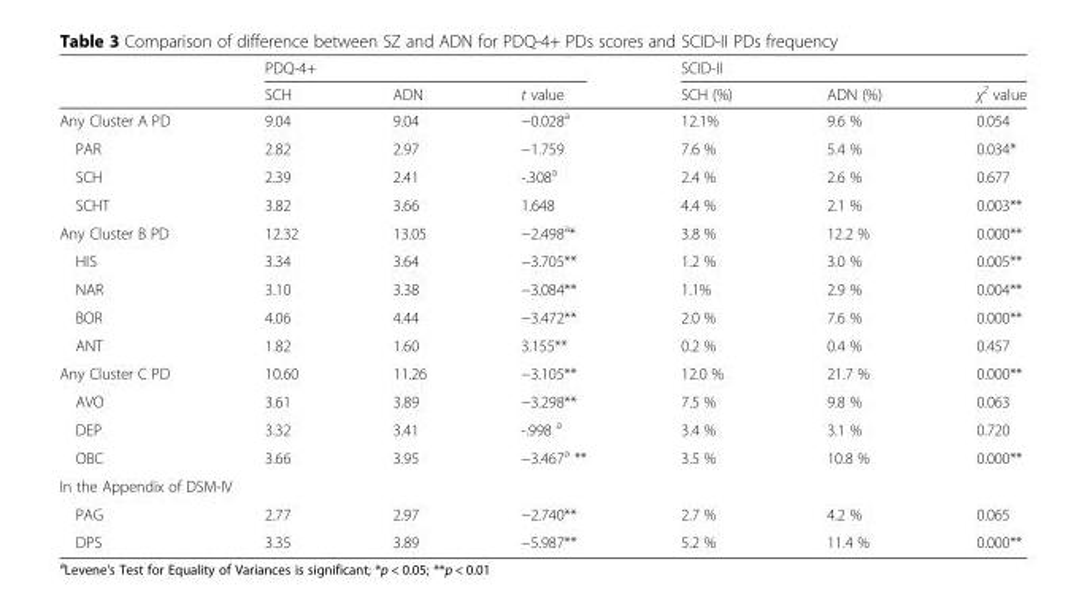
<table><thead><tr><td rowspan="2"></td><td colspan="3">PDQ-4+</td><td colspan="3">SCID-II</td></tr><tr><td>SCH</td><td>ADN</td><td>t value</td><td>SCH (%)</td><td>ADN (%)</td><td>χ<sup>2</sup> value</td></tr></thead><tbody><tr><td>Any Cluster A PD</td><td>9.04</td><td>9.04</td><td>−0.028<sup>a</sup></td><td>12.1%</td><td>9.6 %</td><td>0.054</td></tr><tr><td>PAR</td><td>2.82</td><td>2.97</td><td>−1.759</td><td>7.6 %</td><td>5.4 %</td><td>0.034*</td></tr><tr><td>SCH</td><td>2.39</td><td>2.41</td><td>-.308<sup>a</sup></td><td>2.4 %</td><td>2.6 %</td><td>0.677</td></tr><tr><td>SCHT</td><td>3.82</td><td>3.66</td><td>1.648</td><td>4.4 %</td><td>2.1 %</td><td>0.003**</td></tr><tr><td>Any Cluster B PD</td><td>12.32</td><td>13.05</td><td>−2.498<sup>a</sup>*</td><td>3.8 %</td><td>12.2 %</td><td>0.000**</td></tr><tr><td>HIS</td><td>3.34</td><td>3.64</td><td>−3.705**</td><td>1.2 %</td><td>3.0 %</td><td>0.005**</td></tr><tr><td>NAR</td><td>3.10</td><td>3.38</td><td>−3.084**</td><td>1.1%</td><td>2.9 %</td><td>0.004**</td></tr><tr><td>BOR</td><td>4.06</td><td>4.44</td><td>−3.472**</td><td>2.0 %</td><td>7.6 %</td><td>0.000**</td></tr><tr><td>ANT</td><td>1.82</td><td>1.60</td><td>3.155**</td><td>0.2 %</td><td>0.4 %</td><td>0.457</td></tr><tr><td>Any Cluster C PD</td><td>10.60</td><td>11.26</td><td>−3.105**</td><td>12.0 %</td><td>21.7 %</td><td>0.000**</td></tr><tr><td>AVO</td><td>3.61</td><td>3.89</td><td>−3.298**</td><td>7.5 %</td><td>9.8 %</td><td>0.063</td></tr><tr><td>DEP</td><td>3.32</td><td>3.41</td><td>-.998 <sup>a</sup></td><td>3.4 %</td><td>3.1 %</td><td>0.720</td></tr><tr><td>OBC</td><td>3.66</td><td>3.95</td><td>−3.467<sup>a</sup> **</td><td>3.5 %</td><td>10.8 %</td><td>0.000**</td></tr><tr><td colspan="7">In the Appendix of DSM-IV</td></tr><tr><td>PAG</td><td>2.77</td><td>2.97</td><td>−2.740**</td><td>2.7 %</td><td>4.2 %</td><td>0.065</td></tr><tr><td>DPS</td><td>3.35</td><td>3.89</td><td>−5.987**</td><td>5.2 %</td><td>11.4 %</td><td>0.000**</td></tr></tbody></table>